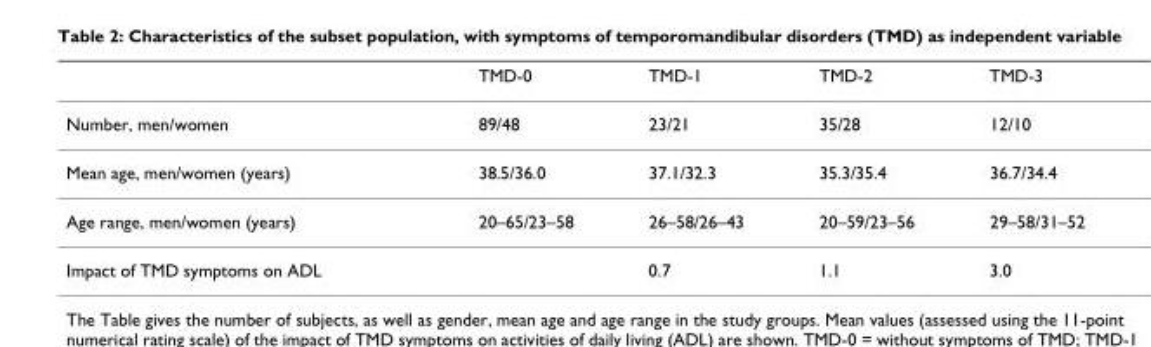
<table><thead><tr><td></td><td>TMD-0</td><td>TMD-1</td><td>TMD-2</td><td>TMD-3</td></tr></thead><tbody><tr><td>Number, men/women</td><td>89/48</td><td>23/21</td><td>35/28</td><td>12/10</td></tr><tr><td>Mean age, men/women (years)</td><td>38.5/36.0</td><td>37.1/32.3</td><td>35.3/35.4</td><td>36.7/34.4</td></tr><tr><td>Age range, men/women (years)</td><td>20–65/23–58</td><td>26–58/26–43</td><td>20–59/23–56</td><td>29–58/31–52</td></tr><tr><td>Impact of TMD symptoms on ADL</td><td></td><td>0.7</td><td>1.1</td><td>3.0</td></tr></tbody></table>